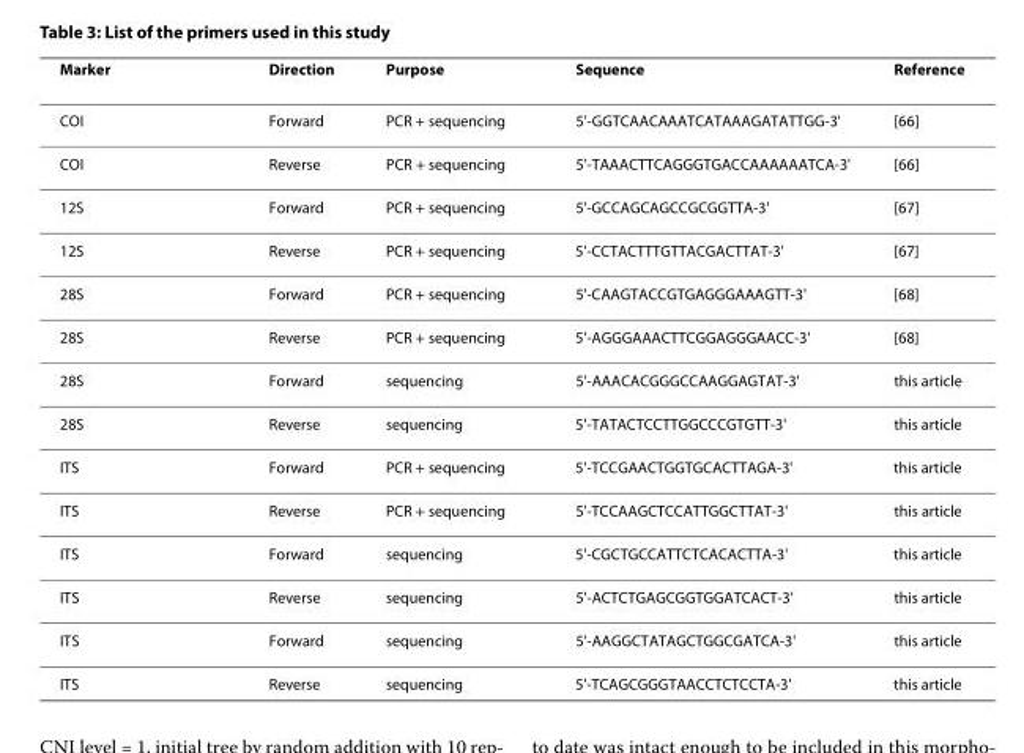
<table><thead><tr><td>Marker</td><td>Direction</td><td>Purpose</td><td>Sequence</td><td>Reference</td></tr></thead><tbody><tr><td>COI</td><td>Forward</td><td>PCR + sequencing</td><td>5&#x27;-GGTCAACAAATCATAAAGATATTGG-3&#x27;</td><td>[66]</td></tr><tr><td>COI</td><td>Reverse</td><td>PCR + sequencing</td><td>5&#x27;-TAAACTTCAGGGTGACCAAAAAATCA-3&#x27;</td><td>[66]</td></tr><tr><td>12S</td><td>Forward</td><td>PCR + sequencing</td><td>5&#x27;-GCCAGCAGCCGCGGTTA-3&#x27;</td><td>[67]</td></tr><tr><td>12S</td><td>Reverse</td><td>PCR + sequencing</td><td>5&#x27;-CCTACTTTGTTACGACTTAT-3&#x27;</td><td>[67]</td></tr><tr><td>28S</td><td>Forward</td><td>PCR + sequencing</td><td>5&#x27;-CAAGTACCGTGAGGGAAAGTT-3&#x27;</td><td>[68]</td></tr><tr><td>28S</td><td>Reverse</td><td>PCR + sequencing</td><td>5&#x27;-AGGGAAACTTCGGAGGGAACC-3&#x27;</td><td>[68]</td></tr><tr><td>28S</td><td>Forward</td><td>sequencing</td><td>5&#x27;-AAACACGGGCCAAGGAGTAT-3&#x27;</td><td>this article</td></tr><tr><td>28S</td><td>Reverse</td><td>sequencing</td><td>5&#x27;-TATACTCCTTGGCCCGTGTT-3&#x27;</td><td>this article</td></tr><tr><td>ITS</td><td>Forward</td><td>PCR + sequencing</td><td>5&#x27;-TCCGAACTGGTGCACTTAGA-3&#x27;</td><td>this article</td></tr><tr><td>ITS</td><td>Reverse</td><td>PCR + sequencing</td><td>5&#x27;-TCCAAGCTCCATTGGCTTAT-3&#x27;</td><td>this article</td></tr><tr><td>ITS</td><td>Forward</td><td>sequencing</td><td>5&#x27;-CGCTGCCATTCTCACACTTA-3&#x27;</td><td>this article</td></tr><tr><td>ITS</td><td>Reverse</td><td>sequencing</td><td>5&#x27;-ACTCTGAGCGGTGGATCACT-3&#x27;</td><td>this article</td></tr><tr><td>ITS</td><td>Forward</td><td>sequencing</td><td>5&#x27;-AAGGCTATAGCTGGCGATCA-3&#x27;</td><td>this article</td></tr><tr><td>ITS</td><td>Reverse</td><td>sequencing</td><td>5&#x27;-TCAGCGGGTAACCTCTCCTA-3&#x27;</td><td>this article</td></tr></tbody></table>